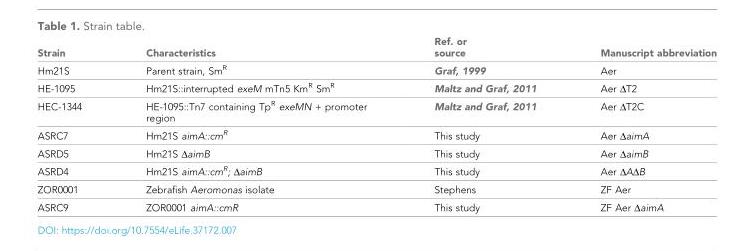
<table><thead><tr><td>Strain</td><td>Characteristics</td><td>Ref. or source</td><td>Manuscript abbreviation</td></tr></thead><tbody><tr><td>Hm21S</td><td>Parent strain, Sm<sup>R</sup></td><td>Graf, 1999</td><td>Aer</td></tr><tr><td>HE-1095</td><td>Hm21S::interrupted exeM mTn5 Km<sup>R</sup> Sm<sup>R</sup></td><td>Maltz and Graf, 2011</td><td>Aer ΔT2</td></tr><tr><td>HEC-1344</td><td>HE-1095::Tn7 containing Tp<sup>R</sup> exeMN + promoter region</td><td>Maltz and Graf, 2011</td><td>Aer ΔT2C</td></tr><tr><td>ASRC7</td><td>Hm21S aimA::cm<sup>R</sup></td><td>This study</td><td>Aer ΔaimA</td></tr><tr><td>ASRD5</td><td>Hm21S ΔaimB</td><td>This study</td><td>Aer ΔaimB</td></tr><tr><td>ASRD4</td><td>Hm21S aimA::cm<sup>R</sup>; ΔaimB</td><td>This study</td><td>Aer ΔAΔB</td></tr><tr><td>ZOR0001</td><td>Zebrafish Aeromonas isolate</td><td>Stephens</td><td>ZF Aer</td></tr><tr><td>ASRC9</td><td>ZOR0001 aimA::cmR</td><td>This study</td><td>ZF Aer ΔaimA</td></tr></tbody></table>